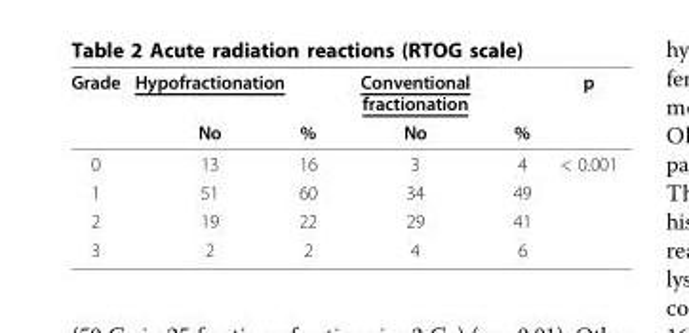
<table><thead><tr><td rowspan="2">Grade</td><td rowspan="2">Hypofractionation No</td><td rowspan="2">%</td><td rowspan="2">Conventional fractionation No</td><td rowspan="2">%</td><td rowspan="2">p</td></tr><tr></tr></thead><tbody><tr><td>0</td><td>13</td><td>16</td><td>3</td><td>4</td><td>&lt; 0.001</td></tr><tr><td>1</td><td>51</td><td>60</td><td>34</td><td>49</td><td></td></tr><tr><td>2</td><td>19</td><td>22</td><td>29</td><td>41</td><td></td></tr><tr><td>3</td><td>2</td><td>2</td><td>4</td><td>6</td><td></td></tr></tbody></table>